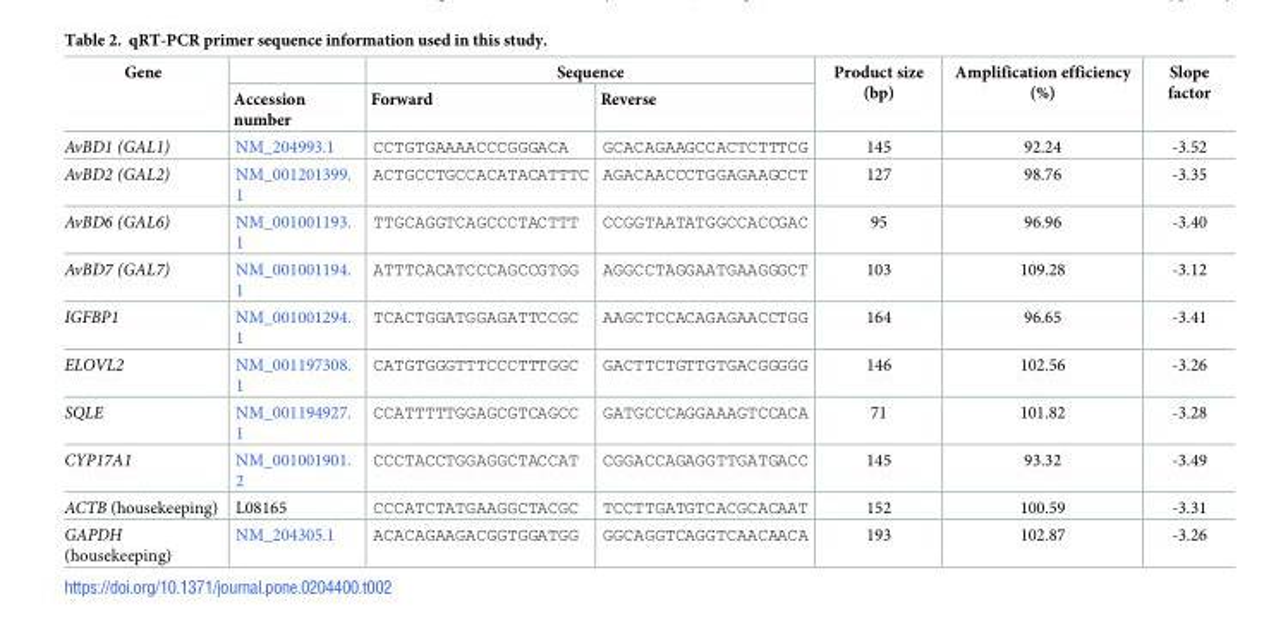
<table><thead><tr><td rowspan="2">Gene</td><td rowspan="2">Accession number</td><td colspan="2">Sequence</td><td rowspan="2">Product size (bp)</td><td rowspan="2">Amplification efficiency (%)</td><td rowspan="2">Slope factor</td></tr><tr><td>Forward</td><td>Reverse</td></tr></thead><tbody><tr><td>AvBD1 (GAL1)</td><td>NM_204993.1</td><td>CCTGTGAAAACCCGGGACA</td><td>GCACAGAAGCCACTCTTTCG</td><td>145</td><td>92.24</td><td>-3.52</td></tr><tr><td>AvBD2 (GAL2)</td><td>NM_001201399. 1</td><td>ACTGCCTGCCACATACATTTC</td><td>AGACAACCCTGGAGAAGCCT</td><td>127</td><td>98.76</td><td>-3.35</td></tr><tr><td>AvBD6 (GAL6)</td><td>NM_001001193. 1</td><td>TTGCAGGTCAGCCCTACTTT</td><td>CCGGTAATATGGCCACCGAC</td><td>95</td><td>96.96</td><td>-3.40</td></tr><tr><td>AvBD7 (GAL7)</td><td>NM_001001194. 1</td><td>ATTTCACATCCCAGCCGTGG</td><td>AGGCCTAGGAATGAAGGGCT</td><td>103</td><td>109.28</td><td>-3.12</td></tr><tr><td>IGFBP1</td><td>NM_001001294. 1</td><td>TCACTGGATGGAGATTCCGC</td><td>AAGCTCCACAGAGAACCTGG</td><td>164</td><td>96.65</td><td>-3.41</td></tr><tr><td>ELOVL2</td><td>NM_001197308. 1</td><td>CATGTGGGTTTCCCTTTGGC</td><td>GACTTCTGTTGTGACGGGGG</td><td>146</td><td>102.56</td><td>-3.26</td></tr><tr><td>SQLE</td><td>NM_001194927. 1</td><td>CCATTTTTGGAGCGTCAGCC</td><td>GATGCCCAGGAAAGTCCACA</td><td>71</td><td>101.82</td><td>-3.28</td></tr><tr><td>CYP17A1</td><td>NM_001001901. 2</td><td>CCCTACCTGGAGGCTACCAT</td><td>CGGACCAGAGGTTGATGACC</td><td>145</td><td>93.32</td><td>-3.49</td></tr><tr><td>ACTB (housekeeping)</td><td>L08165</td><td>CCCATCTATGAAGGCTACGC</td><td>TCCTTGATGTCACGCACAAT</td><td>152</td><td>100.59</td><td>-3.31</td></tr><tr><td>GAPDH (housekeeping)</td><td>NM_204305.1</td><td>ACACAGAAGACGGTGGATGG</td><td>GGCAGGTCAGGTCAACAACA</td><td>193</td><td>102.87</td><td>-3.26</td></tr></tbody></table>